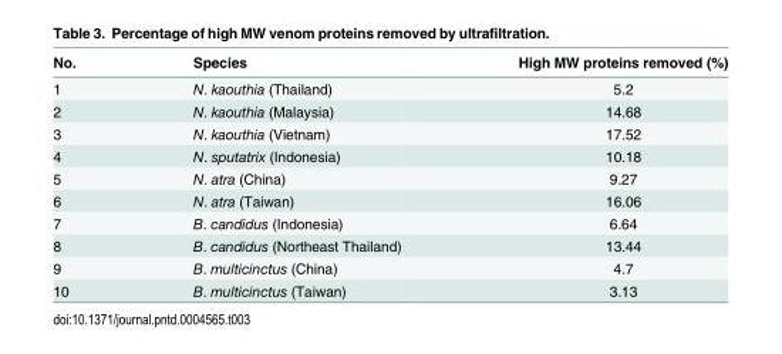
<table><thead><tr><td>No.</td><td>Species</td><td>High MW proteins removed (%)</td></tr></thead><tbody><tr><td>1</td><td>N. kaouthia (Thailand)</td><td>5.2</td></tr><tr><td>2</td><td>N. kaouthia (Malaysia)</td><td>14.68</td></tr><tr><td>3</td><td>N. kaouthia (Vietnam)</td><td>17.52</td></tr><tr><td>4</td><td>N. sputatrix (Indonesia)</td><td>10.18</td></tr><tr><td>5</td><td>N. atra (China)</td><td>9.27</td></tr><tr><td>6</td><td>N. atra (Taiwan)</td><td>16.06</td></tr><tr><td>7</td><td>B. candidus (Indonesia)</td><td>6.64</td></tr><tr><td>8</td><td>B. candidus (Northeast Thailand)</td><td>13.44</td></tr><tr><td>9</td><td>B. multicinctus (China)</td><td>4.7</td></tr><tr><td>10</td><td>B. multicinctus (Taiwan)</td><td>3.13</td></tr></tbody></table>